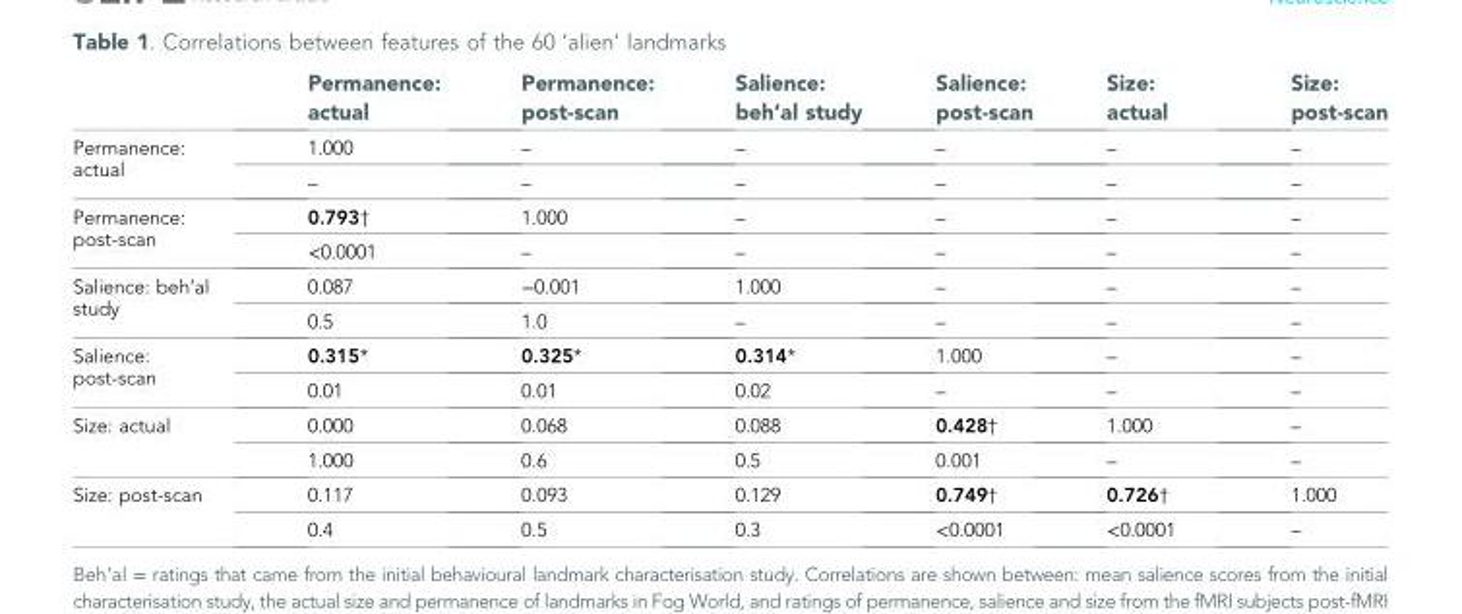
<table><thead><tr><td></td><td>Permanence: actual</td><td>Permanence: post-scan</td><td>Salience: beh’al study</td><td>Salience: post-scan</td><td>Size: actual</td><td>Size: post-scan</td></tr></thead><tbody><tr><td rowspan="2">Permanence: actual</td><td>1.000</td><td>–</td><td>–</td><td>–</td><td>–</td><td>–</td></tr><tr><td>–</td><td>–</td><td>–</td><td>–</td><td>–</td><td>–</td></tr><tr><td rowspan="2">Permanence: post-scan</td><td>0.793†</td><td>1.000</td><td>–</td><td>–</td><td>–</td><td>–</td></tr><tr><td>&lt;0.0001</td><td>–</td><td>–</td><td>–</td><td>–</td><td>–</td></tr><tr><td rowspan="2">Salience: beh’al study</td><td>0.087</td><td>−0.001</td><td>1.000</td><td>–</td><td>–</td><td>–</td></tr><tr><td>0.5</td><td>1.0</td><td>–</td><td>–</td><td>–</td><td>–</td></tr><tr><td rowspan="2">Salience: post-scan</td><td>0.315*</td><td>0.325*</td><td>0.314*</td><td>1.000</td><td>–</td><td>–</td></tr><tr><td>0.01</td><td>0.01</td><td>0.02</td><td>–</td><td>–</td><td>–</td></tr><tr><td rowspan="2">Size: actual</td><td>0.000</td><td>0.068</td><td>0.088</td><td>0.428†</td><td>1.000</td><td>–</td></tr><tr><td>1.000</td><td>0.6</td><td>0.5</td><td>0.001</td><td>–</td><td>–</td></tr><tr><td rowspan="2">Size: post-scan</td><td>0.117</td><td>0.093</td><td>0.129</td><td>0.749†</td><td>0.726†</td><td>1.000</td></tr><tr><td>0.4</td><td>0.5</td><td>0.3</td><td>&lt;0.0001</td><td>&lt;0.0001</td><td>–</td></tr></tbody></table>